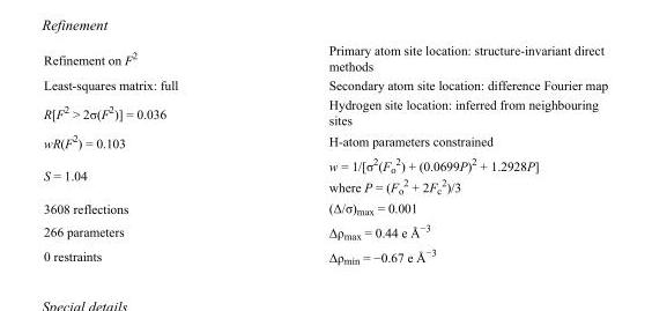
<table><tbody><tr><td>Refinement on F<sup>2</sup></td><td>Primary atom site location: structure-invariant direct methods</td></tr><tr><td>Least-squares matrix: full</td><td>Secondary atom site location: difference Fourier map</td></tr><tr><td>R[F<sup>2</sup> &gt; 2σ(F<sup>2</sup>)] = 0.036</td><td>Hydrogen site location: inferred from neighbouring sites</td></tr><tr><td>wR(F<sup>2</sup>) = 0.103</td><td>H-atom parameters constrained</td></tr><tr><td>S = 1.04</td><td>w = 1/[σ<sup>2</sup>(F<sub>o</sub> <sup>2</sup>) + (0.0699P)<sup>2</sup> + 1.2928P] where P = (F<sub>o</sub> <sup>2</sup> + 2F<sub>c</sub> <sup>2</sup>)/3</td></tr><tr><td>3608 reflections</td><td>(Δ/σ)<sub>max</sub> = 0.001</td></tr><tr><td>266 parameters</td><td>Δρ<sub>max</sub> = 0.44 e Å<sup>−3</sup></td></tr><tr><td>0 restraints</td><td>Δρ<sub>min</sub> = −0.67 e Å<sup>−3</sup></td></tr></tbody></table>